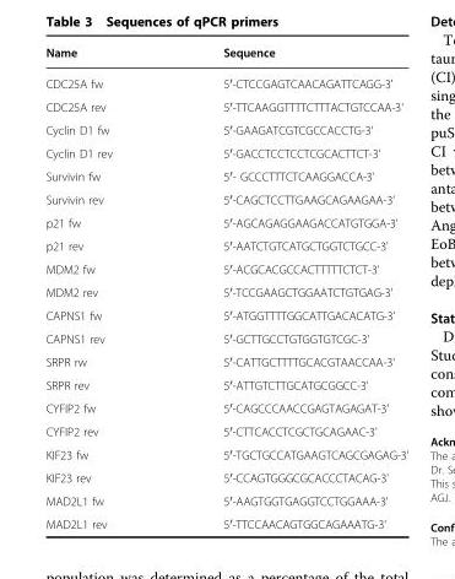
<table><thead><tr><td>Name</td><td>Sequence</td></tr></thead><tbody><tr><td>CDC25A fw</td><td>5′-CTCCGAGTCAACAGATTCAGG-3&#x27;</td></tr><tr><td>CDC25A rev</td><td>5′-TTCAAGGTTTTCTTTACTGTCCAA-3&#x27;</td></tr><tr><td>Cyclin D1 fw</td><td>5′-GAAGATCGTCGCCACCTG-3&#x27;</td></tr><tr><td>Cyclin D1 rev</td><td>5′-GACCTCCTCCTCGCACTTCT-3&#x27;</td></tr><tr><td>Survivin fw</td><td>5′- GCCCTTTCTCAAGGACCA-3&#x27;</td></tr><tr><td>Survivin rev</td><td>5′-CAGCTCCTTGAAGCAGAAGAA-3&#x27;</td></tr><tr><td>p21 fw</td><td>5′-AGCAGAGGAAGACCATGTGGA-3&#x27;</td></tr><tr><td>p21 rev</td><td>5′-AATCTGTCATGCTGGTCTGCC-3&#x27;</td></tr><tr><td>MDM2 fw</td><td>5′-ACGCACGCCACTTTTTCTCT-3&#x27;</td></tr><tr><td>MDM2 rev</td><td>5′-TCCGAAGCTGGAATCTGTGAG-3&#x27;</td></tr><tr><td>CAPNS1 fw</td><td>5′-ATGGTTTTGGCATTGACACATG-3&#x27;</td></tr><tr><td>CAPNS1 rev</td><td>5′-GCTTGCCTGTGGTGTCGC-3&#x27;</td></tr><tr><td>SRPR rw</td><td>5′-CATTGCTTTTGCACGTAACCAA-3&#x27;</td></tr><tr><td>SRPR rev</td><td>5′-ATTGTCTTGCATGCGGCC-3&#x27;</td></tr><tr><td>CYFIP2 fw</td><td>5′-CAGCCCAACCGAGTAGAGAT-3&#x27;</td></tr><tr><td>CYFIP2 rev</td><td>5′-CTTCACCTCGCTGCAGAAC-3&#x27;</td></tr><tr><td>KIF23 fw</td><td>5′-TGCTGCCATGAAGTCAGCGAGAG-3&#x27;</td></tr><tr><td>KIF23 rev</td><td>5′-CCAGTGGGCGCACCCTACAG-3&#x27;</td></tr><tr><td>MAD2L1 fw</td><td>5′-AAGTGGTGAGGTCCTGGAAA-3&#x27;</td></tr><tr><td>MAD2L1 rev</td><td>5′-TTCCAACAGTGGCAGAAATG-3&#x27;</td></tr></tbody></table>